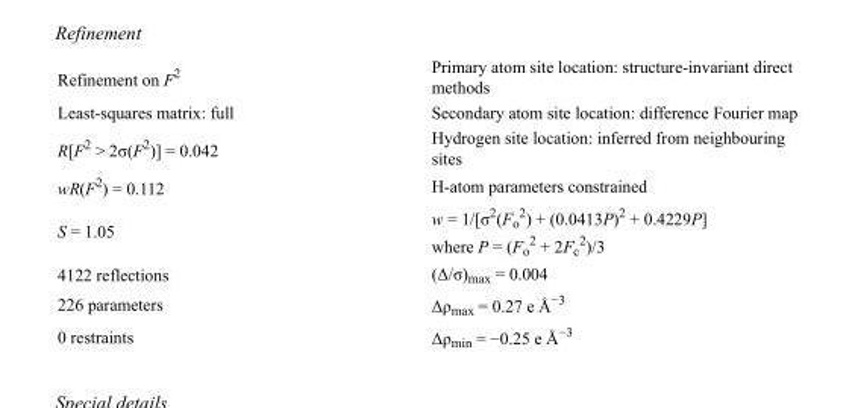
<table><tbody><tr><td>Refinement on F<sup>2</sup></td><td>Primary atom site location: structure-invariant direct methods</td></tr><tr><td>Least-squares matrix: full</td><td>Secondary atom site location: difference Fourier map</td></tr><tr><td>R[F<sup>2</sup> &gt; 2σ(F<sup>2</sup>)] = 0.042</td><td>Hydrogen site location: inferred from neighbouring sites</td></tr><tr><td>wR(F<sup>2</sup>) = 0.112</td><td>H-atom parameters constrained</td></tr><tr><td>S = 1.05</td><td>w = 1/[σ<sup>2</sup>(F<sub>o</sub> <sup>2</sup>) + (0.0413P)<sup>2</sup> + 0.4229P] where P = (F<sub>o</sub> <sup>2</sup> + 2F<sub>c</sub> <sup>2</sup>)/3</td></tr><tr><td>4122 reflections</td><td>(Δ/σ)<sub>max</sub> = 0.004</td></tr><tr><td>226 parameters</td><td>Δρ<sub>max</sub> = 0.27 e Å<sup>−3</sup></td></tr><tr><td>0 restraints</td><td>Δρ<sub>min</sub> = −0.25 e Å<sup>−3</sup></td></tr></tbody></table>